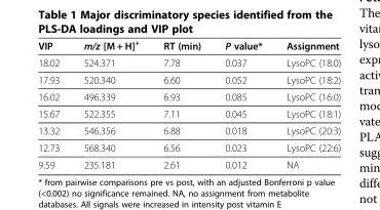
<table><thead><tr><td>VIP</td><td>m/z [M + H]<sup>+</sup></td><td>RT (min)</td><td>P value*</td><td>Assignment</td></tr></thead><tbody><tr><td>18.02</td><td>524.371</td><td>7.78</td><td>0.037</td><td>LysoPC (18:0)</td></tr><tr><td>17.93</td><td>520.340</td><td>6.60</td><td>0.052</td><td>LysoPC (18:2)</td></tr><tr><td>16.02</td><td>496.339</td><td>6.93</td><td>0.085</td><td>LysoPC (16:0)</td></tr><tr><td>15.67</td><td>522.355</td><td>7.11</td><td>0.045</td><td>LysoPC (18:1)</td></tr><tr><td>13.32</td><td>546.356</td><td>6.88</td><td>0.018</td><td>LysoPC (20:3)</td></tr><tr><td>12.73</td><td>568.340</td><td>6.56</td><td>0.023</td><td>LysoPC (22:6)</td></tr><tr><td>9.59</td><td>235.181</td><td>2.61</td><td>0.012</td><td>NA</td></tr></tbody></table>